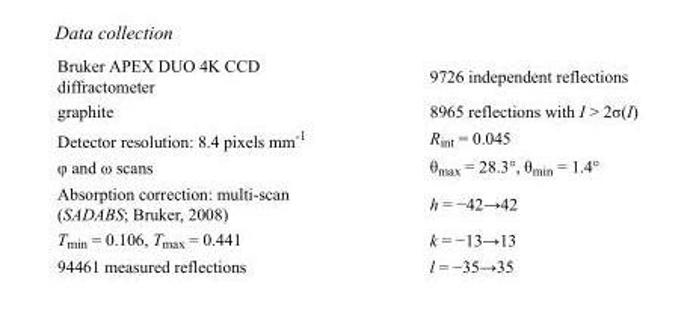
<table><tbody><tr><td>Bruker APEX DUO 4K CCD diffractometer</td><td>9726 independent reflections</td></tr><tr><td>graphite</td><td>8965 reflections with I &gt; 2σ(I)</td></tr><tr><td>Detector resolution: 8.4 pixels mm<sup>-1</sup></td><td>R<sub>int</sub> = 0.045</td></tr><tr><td>φ and ω scans</td><td>θ<sub>max</sub> = 28.3°, θ<sub>min</sub> = 1.4°</td></tr><tr><td>Absorption correction: multi-scan (SADABS; Bruker, 2008)</td><td>h = −42→42</td></tr><tr><td>T<sub>min</sub> = 0.106, T<sub>max</sub> = 0.441</td><td>k = −13→13</td></tr><tr><td>94461 measured reflections</td><td>l = −35→35</td></tr></tbody></table>